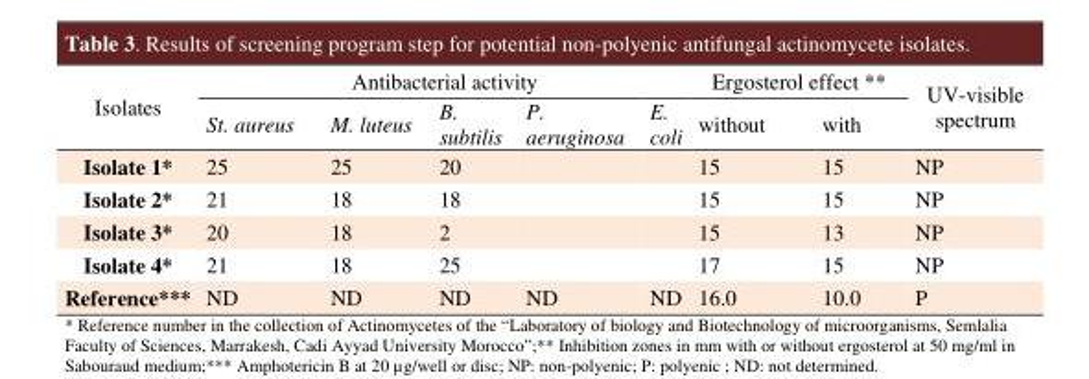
<table><thead><tr><td rowspan="2">Isolates</td><td colspan="5">Antibacterial activity</td><td colspan="2">Ergosterol effect **</td><td rowspan="2">UV-visible spectrum</td></tr><tr><td>St. aureus</td><td>M. luteus</td><td>B. subtilis</td><td>P. aeruginosa</td><td>E. coli</td><td>without</td><td>with</td></tr></thead><tbody><tr><td>Isolate 1*</td><td>25</td><td>25</td><td>20</td><td></td><td></td><td>15</td><td>15</td><td>NP</td></tr><tr><td>Isolate 2*</td><td>21</td><td>18</td><td>18</td><td></td><td></td><td>15</td><td>15</td><td>NP</td></tr><tr><td>Isolate 3*</td><td>20</td><td>18</td><td>2</td><td></td><td></td><td>15</td><td>13</td><td>NP</td></tr><tr><td>Isolate 4*</td><td>21</td><td>18</td><td>25</td><td></td><td></td><td>17</td><td>15</td><td>NP</td></tr><tr><td>Reference***</td><td>ND</td><td>ND</td><td>ND</td><td>ND</td><td>ND</td><td>16.0</td><td>10.0</td><td>P</td></tr></tbody></table>